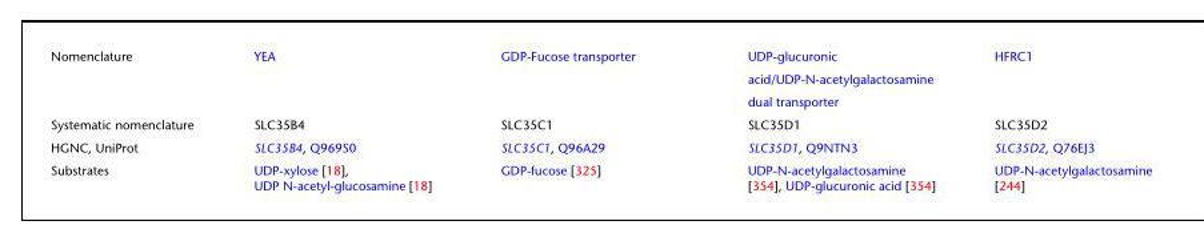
<table><tbody><tr><td rowspan="3">Nomenclature</td><td>YEA</td><td>GDP-Fucose transporter</td><td>UDP-glucuronic</td><td>HFRC1</td></tr><tr><td></td><td></td><td>acid/UDP-N-acetylgalactosamine</td><td></td></tr><tr><td></td><td></td><td>dual transporter</td><td></td></tr><tr><td>Systematic nomenclature</td><td>SLC35B4</td><td>SLC35C1</td><td>SLC35D1</td><td>SLC35D2</td></tr><tr><td>HGNC, UniProt</td><td>SLC35B4, Q969S0</td><td>SLC35C1, Q96A29</td><td>SLC35D1, Q9NTN3</td><td>SLC35D2, Q76EJ3</td></tr><tr><td>Substrates</td><td>UDP-xylose [18], UDP N-acetyl-glucosamine [18]</td><td>GDP-fucose [325]</td><td>UDP-N-acetylgalactosamine [354], UDP-glucuronic acid [354]</td><td>UDP-N-acetylgalactosamine [244]</td></tr></tbody></table>